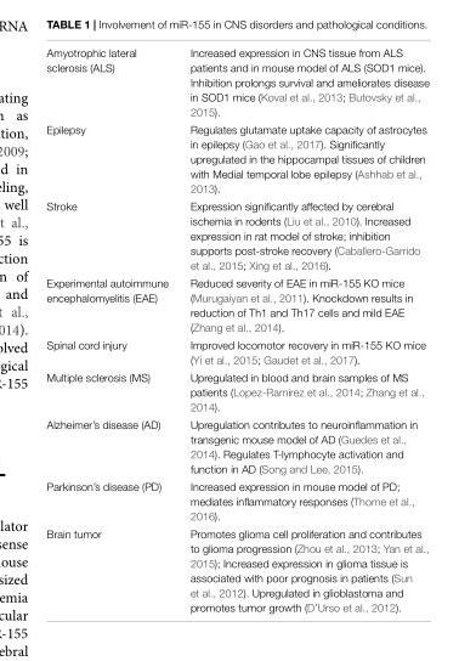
<table><tbody><tr><td>Amyotrophic lateral sclerosis (ALS)</td><td>Increased expression in CNS tissue from ALS patients and in mouse model of ALS (SOD1 mice). Inhibition prolongs survival and ameliorates disease in SOD1 mice (Koval et al., 2013; Butovsky et al., 2015).</td></tr><tr><td>Epilepsy</td><td>Regulates glutamate uptake capacity of astrocytes in epilepsy (Gao et al., 2017). Significantly upregulated in the hippocampal tissues of children with Medial temporal lobe epilepsy (Ashhab et al., 2013).</td></tr><tr><td>Stroke</td><td>Expression significantly affected by cerebral ischemia in rodents (Liu et al., 2010). Increased expression in rat model of stroke; inhibition supports post-stroke recovery (Caballero-Garrido et al., 2015; Xing et al., 2016).</td></tr><tr><td>Experimental autoimmune encephalomyelitis (EAE)</td><td>Reduced severity of EAE in miR-155 KO mice (Murugaiyan et al., 2011). Knockdown results in reduction of Th1 and Th17 cells and mild EAE (Zhang et al., 2014).</td></tr><tr><td>Spinal cord injury</td><td>Improved locomotor recovery in miR-155 KO mice (Yi et al., 2015; Gaudet et al., 2017).</td></tr><tr><td>Multiple sclerosis (MS)</td><td>Upregulated in blood and brain samples of MS patients (Lopez-Ramirez et al., 2014; Zhang et al., 2014).</td></tr><tr><td>Alzheimer’s disease (AD)</td><td>Upregulation contributes to neuroinflammation in transgenic mouse model of AD (Guedes et al., 2014). Regulates T-lymphocyte activation and function in AD (Song and Lee, 2015).</td></tr><tr><td>Parkinson’s disease (PD)</td><td>Increased expression in mouse model of PD; mediates inflammatory responses (Thome et al., 2016).</td></tr><tr><td>Brain tumor</td><td>Promotes glioma cell proliferation and contributes to glioma progression (Zhou et al., 2013; Yan et al., 2015); Increased expression in glioma tissue is associated with poor prognosis in patients (Sun et al., 2012). Upregulated in glioblastoma and promotes tumor growth (D’Urso et al., 2012).</td></tr></tbody></table>